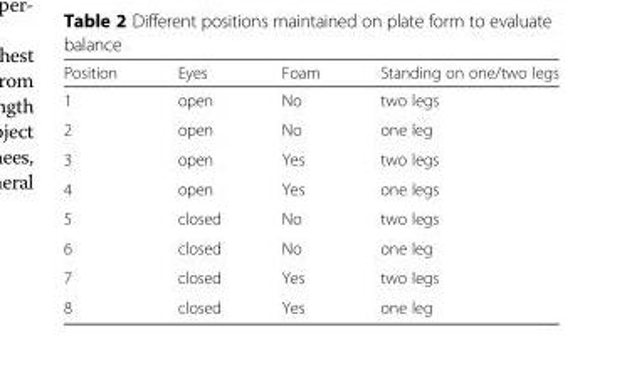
<table><thead><tr><td>Position</td><td>Eyes</td><td>Foam</td><td>Standing on one/two legs</td></tr></thead><tbody><tr><td>1</td><td>open</td><td>No</td><td>two legs</td></tr><tr><td>2</td><td>open</td><td>No</td><td>one leg</td></tr><tr><td>3</td><td>open</td><td>Yes</td><td>two legs</td></tr><tr><td>4</td><td>open</td><td>Yes</td><td>one legs</td></tr><tr><td>5</td><td>closed</td><td>No</td><td>two legs</td></tr><tr><td>6</td><td>closed</td><td>No</td><td>one leg</td></tr><tr><td>7</td><td>closed</td><td>Yes</td><td>two legs</td></tr><tr><td>8</td><td>closed</td><td>Yes</td><td>one leg</td></tr></tbody></table>